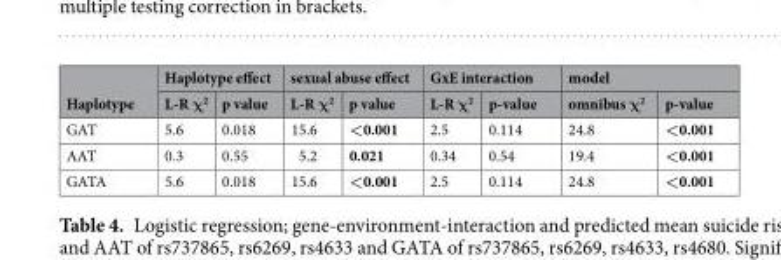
<table><thead><tr><td rowspan="2">Haplotype</td><td colspan="2">Haplotype effect</td><td colspan="2">sexual abuse effect</td><td colspan="2">GxE interaction</td><td colspan="2">model</td></tr><tr><td>L-R χ<sup>2</sup></td><td>p value</td><td>L-R χ<sup>2</sup></td><td>p value</td><td>L-R χ<sup>2</sup></td><td>p-value</td><td>omnibus χ<sup>2</sup></td><td>p-value</td></tr></thead><tbody><tr><td>GAT</td><td>5.6</td><td>0.018</td><td>15.6</td><td>&lt;0.001</td><td>2.5</td><td>0.114</td><td>24.8</td><td>&lt;0.001</td></tr><tr><td>AAT</td><td>0.3</td><td>0.55</td><td>5.2</td><td>0.021</td><td>0.34</td><td>0.54</td><td>19.4</td><td>&lt;0.001</td></tr><tr><td>GATA</td><td>5.6</td><td>0.018</td><td>15.6</td><td>&lt;0.001</td><td>2.5</td><td>0.114</td><td>24.8</td><td>&lt;0.001</td></tr></tbody></table>